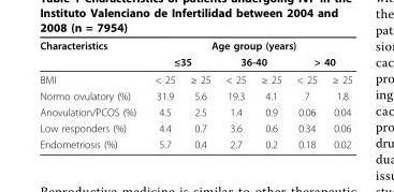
<table><thead><tr><td rowspan="3">Characteristics BMI</td><td colspan="6">Age group (years)</td></tr><tr><td colspan="2">≤35</td><td colspan="2">36-40</td><td colspan="2">&gt; 40</td></tr><tr><td>&lt; 25</td><td>≥ 25</td><td>&lt; 25</td><td>≥ 25</td><td>&lt; 25</td><td>≥ 25</td></tr></thead><tbody><tr><td>Normo ovulatory (%)</td><td>31.9</td><td>5.6</td><td>19.3</td><td>4.1</td><td>7</td><td>1.8</td></tr><tr><td>Anovulation/PCOS (%)</td><td>4.5</td><td>2.5</td><td>1.4</td><td>0.9</td><td>0.06</td><td>0.04</td></tr><tr><td>Low responders (%)</td><td>4.4</td><td>0.7</td><td>3.6</td><td>0.6</td><td>0.34</td><td>0.06</td></tr><tr><td>Endometriosis (%)</td><td>5.7</td><td>0.4</td><td>2.7</td><td>0.2</td><td>0.18</td><td>0.02</td></tr></tbody></table>